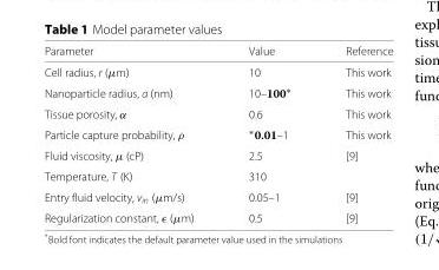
<table><thead><tr><td>Parameter</td><td>Value</td><td>Reference</td></tr></thead><tbody><tr><td>Cell radius, r (μm)</td><td>10</td><td>This work</td></tr><tr><td>Nanoparticle radius, a (nm)</td><td>10–100∗</td><td>This work</td></tr><tr><td>Tissue porosity, α</td><td>0.6</td><td>This work</td></tr><tr><td>Particle capture probability, ρ</td><td>∗0.01–1</td><td>This work</td></tr><tr><td>Fluid viscosity, μ (cP)</td><td>2.5</td><td>[9]</td></tr><tr><td>Temperature, T (K)</td><td>310</td><td></td></tr><tr><td>Entry fluid velocity, v<sub>in</sub> (μm/s)</td><td>0.05–1</td><td>[9]</td></tr><tr><td>Regularization constant, ϵ (μm)</td><td>0.5</td><td>[9]</td></tr></tbody></table>